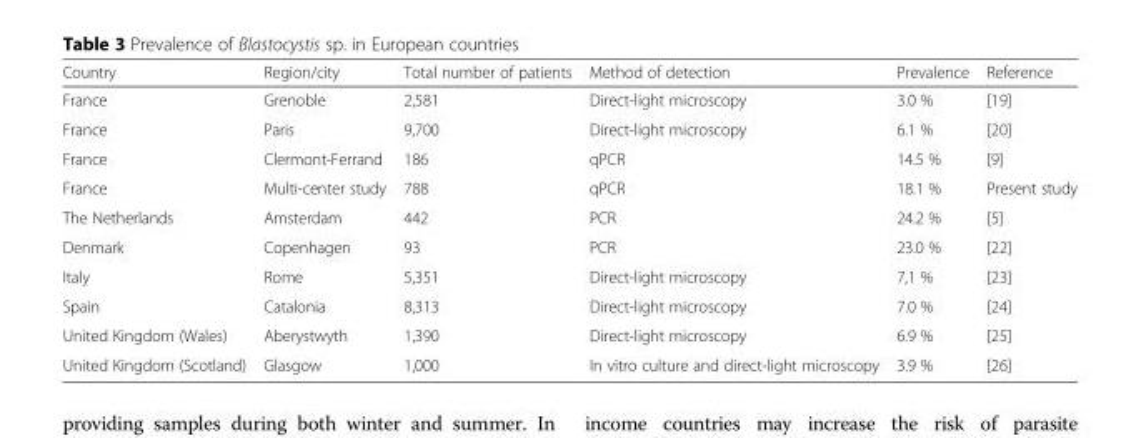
<table><thead><tr><td>Country</td><td>Region/city</td><td>Total number of patients</td><td>Method of detection</td><td>Prevalence</td><td>Reference</td></tr></thead><tbody><tr><td>France</td><td>Grenoble</td><td>2,581</td><td>Direct-light microscopy</td><td>3.0 %</td><td>[19]</td></tr><tr><td>France</td><td>Paris</td><td>9,700</td><td>Direct-light microscopy</td><td>6.1 %</td><td>[20]</td></tr><tr><td>France</td><td>Clermont-Ferrand</td><td>186</td><td>qPCR</td><td>14.5 %</td><td>[9]</td></tr><tr><td>France</td><td>Multi-center study</td><td>788</td><td>qPCR</td><td>18.1 %</td><td>Present study</td></tr><tr><td>The Netherlands</td><td>Amsterdam</td><td>442</td><td>PCR</td><td>24.2 %</td><td>[5]</td></tr><tr><td>Denmark</td><td>Copenhagen</td><td>93</td><td>PCR</td><td>23.0 %</td><td>[22]</td></tr><tr><td>Italy</td><td>Rome</td><td>5,351</td><td>Direct-light microscopy</td><td>7,1 %</td><td>[23]</td></tr><tr><td>Spain</td><td>Catalonia</td><td>8,313</td><td>Direct-light microscopy</td><td>7.0 %</td><td>[24]</td></tr><tr><td>United Kingdom (Wales)</td><td>Aberystwyth</td><td>1,390</td><td>Direct-light microscopy</td><td>6.9 %</td><td>[25]</td></tr><tr><td>United Kingdom (Scotland)</td><td>Glasgow</td><td>1,000</td><td>In vitro culture and direct-light microscopy</td><td>3.9 %</td><td>[26]</td></tr></tbody></table>